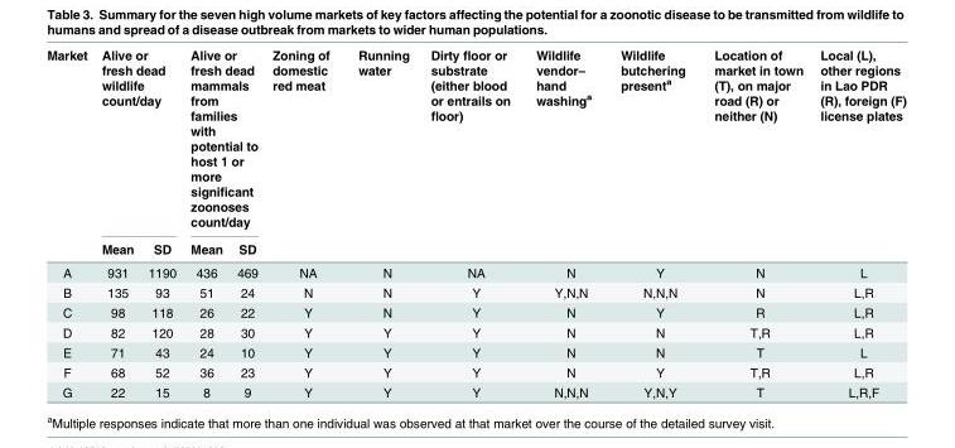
<table><thead><tr><td rowspan="2">Market</td><td colspan="2">Alive or fresh dead wildlife count/day</td><td colspan="2">Alive or fresh dead mammals from families with potential to host 1 or more significant zoonoses count/day</td><td rowspan="2">Zoning of domestic red meat</td><td rowspan="2">Running water</td><td rowspan="2">Dirty floor or substrate (either blood or entrails on floor)</td><td rowspan="2">Wildlife vendor– hand washing<sup>a</sup></td><td rowspan="2">Wildlife butchering present<sup>a</sup></td><td rowspan="2">Location of market in town (T), on major road (R) or neither (N)</td><td rowspan="2">Local (L), other regions in Lao PDR (R), foreign (F) license plates</td></tr><tr><td>Mean</td><td>SD</td><td>Mean</td><td>SD</td></tr></thead><tbody><tr><td>A</td><td>931</td><td>1190</td><td>436</td><td>469</td><td>NA</td><td>N</td><td>NA</td><td>N</td><td>Y</td><td>N</td><td>L</td></tr><tr><td>B</td><td>135</td><td>93</td><td>51</td><td>24</td><td>N</td><td>N</td><td>Y</td><td>Y,N,N</td><td>N,N,N</td><td>N</td><td>L,R</td></tr><tr><td>C</td><td>98</td><td>118</td><td>26</td><td>22</td><td>Y</td><td>N</td><td>Y</td><td>N</td><td>Y</td><td>R</td><td>L,R</td></tr><tr><td>D</td><td>82</td><td>120</td><td>28</td><td>30</td><td>Y</td><td>Y</td><td>Y</td><td>N</td><td>N</td><td>T,R</td><td>L,R</td></tr><tr><td>E</td><td>71</td><td>43</td><td>24</td><td>10</td><td>Y</td><td>Y</td><td>Y</td><td>N</td><td>N</td><td>T</td><td>L</td></tr><tr><td>F</td><td>68</td><td>52</td><td>36</td><td>23</td><td>Y</td><td>Y</td><td>Y</td><td>N</td><td>Y</td><td>T,R</td><td>L,R</td></tr><tr><td>G</td><td>22</td><td>15</td><td>8</td><td>9</td><td>Y</td><td>Y</td><td>Y</td><td>N,N,N</td><td>Y,N,Y</td><td>T</td><td>L,R,F</td></tr></tbody></table>